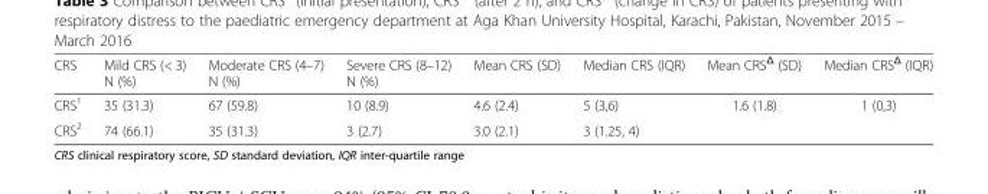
<table><thead><tr><td>CRS</td><td>Mild CRS (&lt; 3) N (%)</td><td>Moderate CRS (4–7) N (%)</td><td>Severe CRS (8–12) N (%)</td><td>Mean CRS (SD)</td><td>Median CRS (IQR)</td><td>Mean CRS<sup>Δ</sup> (SD)</td><td>Median CRS<sup>Δ</sup> (IQR)</td></tr></thead><tbody><tr><td>CRS<sup>1</sup></td><td>35 (31.3)</td><td>67 (59.8)</td><td>10 (8.9)</td><td>4.6 (2.4)</td><td>5 (3,6)</td><td rowspan="2">1.6 (1.8)</td><td rowspan="2">1 (0,3)</td></tr><tr><td>CRS<sup>2</sup></td><td>74 (66.1)</td><td>35 (31.3)</td><td>3 (2.7)</td><td>3.0 (2.1)</td><td>3 (1.25, 4)</td></tr></tbody></table>